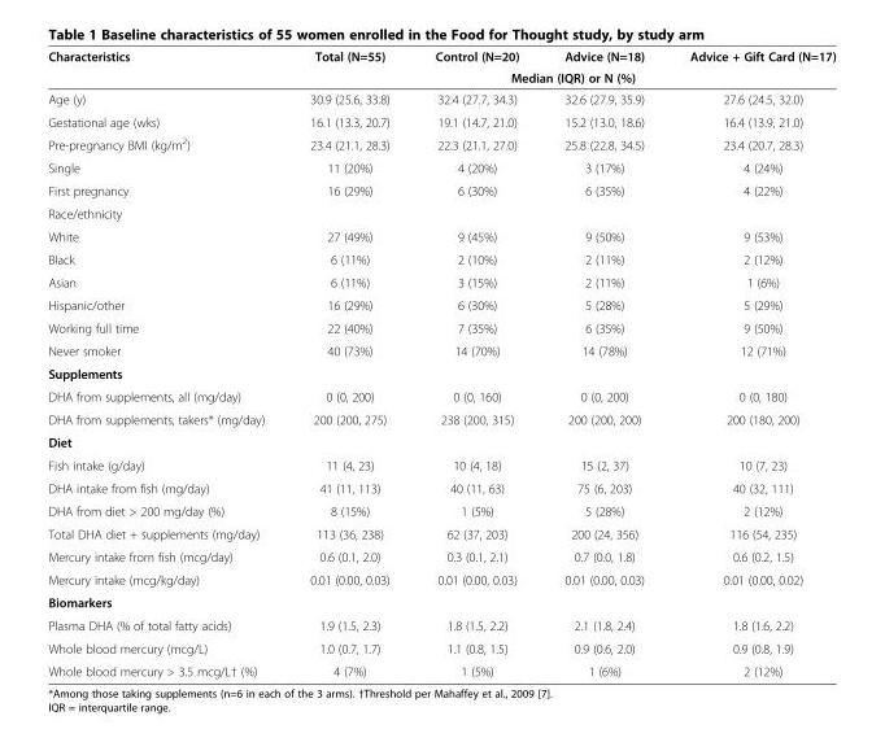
<table><thead><tr><td rowspan="2">Characteristics</td><td>Total (N=55)</td><td>Control (N=20)</td><td>Advice (N=18)</td><td>Advice + Gift Card (N=17)</td></tr><tr><td colspan="4">Median (IQR) or N (%)</td></tr></thead><tbody><tr><td>Age (y)</td><td>30.9 (25.6, 33.8)</td><td>32.4 (27.7, 34.3)</td><td>32.6 (27.9, 35.9)</td><td>27.6 (24.5, 32.0)</td></tr><tr><td>Gestational age (wks)</td><td>16.1 (13.3, 20.7)</td><td>19.1 (14.7, 21.0)</td><td>15.2 (13.0, 18.6)</td><td>16.4 (13.9, 21.0)</td></tr><tr><td>Pre-pregnancy BMI (kg/m<sup>2</sup>)</td><td>23.4 (21.1, 28.3)</td><td>22.3 (21.1, 27.0)</td><td>25.8 (22.8, 34.5)</td><td>23.4 (20.7, 28.3)</td></tr><tr><td>Single</td><td>11 (20%)</td><td>4 (20%)</td><td>3 (17%)</td><td>4 (24%)</td></tr><tr><td>First pregnancy</td><td>16 (29%)</td><td>6 (30%)</td><td>6 (35%)</td><td>4 (22%)</td></tr><tr><td colspan="5">Race/ethnicity</td></tr><tr><td>White</td><td>27 (49%)</td><td>9 (45%)</td><td>9 (50%)</td><td>9 (53%)</td></tr><tr><td>Black</td><td>6 (11%)</td><td>2 (10%)</td><td>2 (11%)</td><td>2 (12%)</td></tr><tr><td>Asian</td><td>6 (11%)</td><td>3 (15%)</td><td>2 (11%)</td><td>1 (6%)</td></tr><tr><td>Hispanic/other</td><td>16 (29%)</td><td>6 (30%)</td><td>5 (28%)</td><td>5 (29%)</td></tr><tr><td>Working full time</td><td>22 (40%)</td><td>7 (35%)</td><td>6 (35%)</td><td>9 (50%)</td></tr><tr><td>Never smoker</td><td>40 (73%)</td><td>14 (70%)</td><td>14 (78%)</td><td>12 (71%)</td></tr><tr><td colspan="5">Supplements</td></tr><tr><td>DHA from supplements, all (mg/day)</td><td>0 (0, 200)</td><td>0 (0, 160)</td><td>0 (0, 200)</td><td>0 (0, 180)</td></tr><tr><td>DHA from supplements, takers* (mg/day)</td><td>200 (200, 275)</td><td>238 (200, 315)</td><td>200 (200, 200)</td><td>200 (180, 200)</td></tr><tr><td colspan="5">Diet</td></tr><tr><td>Fish intake (g/day)</td><td>11 (4, 23)</td><td>10 (4, 18)</td><td>15 (2, 37)</td><td>10 (7, 23)</td></tr><tr><td>DHA intake from fish (mg/day)</td><td>41 (11, 113)</td><td>40 (11, 63)</td><td>75 (6, 203)</td><td>40 (32, 111)</td></tr><tr><td>DHA from diet &gt; 200 mg/day (%)</td><td>8 (15%)</td><td>1 (5%)</td><td>5 (28%)</td><td>2 (12%)</td></tr><tr><td>Total DHA diet + supplements (mg/day)</td><td>113 (36, 238)</td><td>62 (37, 203)</td><td>200 (24, 356)</td><td>116 (54, 235)</td></tr><tr><td>Mercury intake from fish (mcg/day)</td><td>0.6 (0.1, 2.0)</td><td>0.3 (0.1, 2.1)</td><td>0.7 (0.0, 1.8)</td><td>0.6 (0.2, 1.5)</td></tr><tr><td>Mercury intake (mcg/kg/day)</td><td>0.01 (0.00, 0.03)</td><td>0.01 (0.00, 0.03)</td><td>0.01 (0.00, 0.03)</td><td>0.01 (0.00, 0.02)</td></tr><tr><td colspan="5">Biomarkers</td></tr><tr><td>Plasma DHA (% of total fatty acids)</td><td>1.9 (1.5, 2.3)</td><td>1.8 (1.5, 2.2)</td><td>2.1 (1.8, 2.4)</td><td>1.8 (1.6, 2.2)</td></tr><tr><td>Whole blood mercury (mcg/L)</td><td>1.0 (0.7, 1.7)</td><td>1.1 (0.8, 1.5)</td><td>0.9 (0.6, 2.0)</td><td>0.9 (0.8, 1.9)</td></tr><tr><td>Whole blood mercury &gt; 3.5 mcg/L† (%)</td><td>4 (7%)</td><td>1 (5%)</td><td>1 (6%)</td><td>2 (12%)</td></tr></tbody></table>